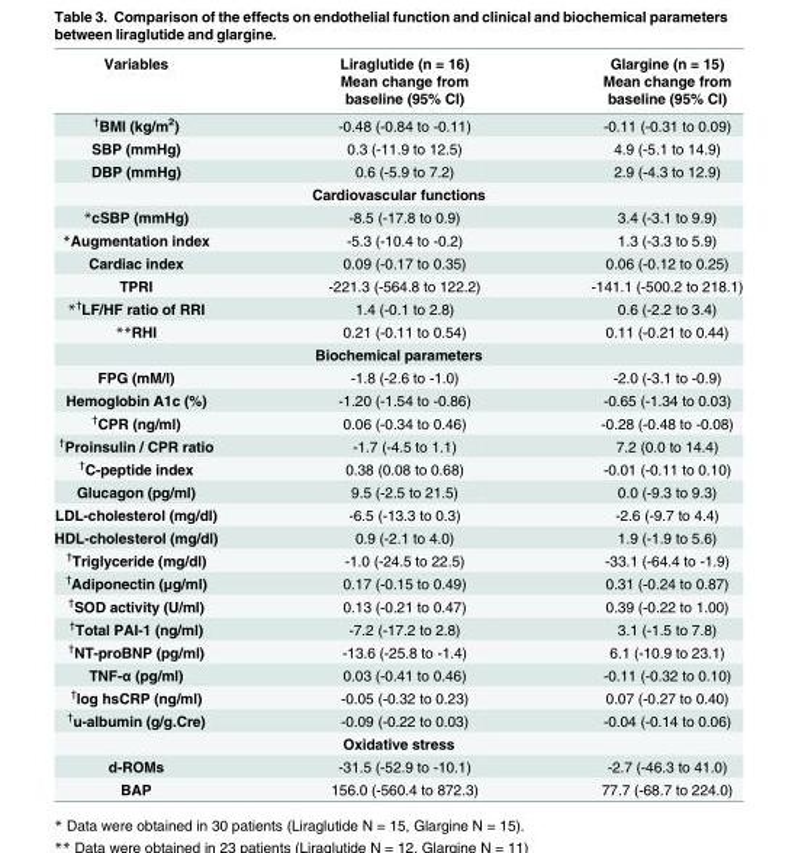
<table><thead><tr><td rowspan="2">Variables</td><td rowspan="2">Liraglutide (n = 16) Mean change from baseline (95% CI)</td><td rowspan="2">Glargine (n = 15) Mean change from baseline (95% CI)</td></tr><tr></tr></thead><tbody><tr><td><sup>†</sup>BMI (kg/m<sup>2</sup>)</td><td>-0.48 (-0.84 to -0.11)</td><td>-0.11 (-0.31 to 0.09)</td></tr><tr><td>SBP (mmHg)</td><td>0.3 (-11.9 to 12.5)</td><td>4.9 (-5.1 to 14.9)</td></tr><tr><td>DBP (mmHg)</td><td>0.6 (-5.9 to 7.2)</td><td>2.9 (-4.3 to 12.9)</td></tr><tr><td colspan="3">Cardiovascular functions</td></tr><tr><td>*cSBP (mmHg)</td><td>-8.5 (-17.8 to 0.9)</td><td>3.4 (-3.1 to 9.9)</td></tr><tr><td>*Augmentation index</td><td>-5.3 (-10.4 to -0.2)</td><td>1.3 (-3.3 to 5.9)</td></tr><tr><td>Cardiac index</td><td>0.09 (-0.17 to 0.35)</td><td>0.06 (-0.12 to 0.25)</td></tr><tr><td>TPRI</td><td>-221.3 (-564.8 to 122.2)</td><td>-141.1 (-500.2 to 218.1)</td></tr><tr><td>*<sup>†</sup>LF/HF ratio of RRI</td><td>1.4 (-0.1 to 2.8)</td><td>0.6 (-2.2 to 3.4)</td></tr><tr><td>**RHI</td><td>0.21 (-0.11 to 0.54)</td><td>0.11 (-0.21 to 0.44)</td></tr><tr><td colspan="3">Biochemical parameters</td></tr><tr><td>FPG (mM/l)</td><td>-1.8 (-2.6 to -1.0)</td><td>-2.0 (-3.1 to -0.9)</td></tr><tr><td>Hemoglobin A1c (%)</td><td>-1.20 (-1.54 to -0.86)</td><td>-0.65 (-1.34 to 0.03)</td></tr><tr><td><sup>†</sup>CPR (ng/ml)</td><td>0.06 (-0.34 to 0.46)</td><td>-0.28 (-0.48 to -0.08)</td></tr><tr><td><sup>†</sup>Proinsulin / CPR ratio</td><td>-1.7 (-4.5 to 1.1)</td><td>7.2 (0.0 to 14.4)</td></tr><tr><td><sup>†</sup>C-peptide index</td><td>0.38 (0.08 to 0.68)</td><td>-0.01 (-0.11 to 0.10)</td></tr><tr><td>Glucagon (pg/ml)</td><td>9.5 (-2.5 to 21.5)</td><td>0.0 (-9.3 to 9.3)</td></tr><tr><td>LDL-cholesterol (mg/dl)</td><td>-6.5 (-13.3 to 0.3)</td><td>-2.6 (-9.7 to 4.4)</td></tr><tr><td>HDL-cholesterol (mg/dl)</td><td>0.9 (-2.1 to 4.0)</td><td>1.9 (-1.9 to 5.6)</td></tr><tr><td><sup>†</sup>Triglyceride (mg/dl)</td><td>-1.0 (-24.5 to 22.5)</td><td>-33.1 (-64.4 to -1.9)</td></tr><tr><td><sup>†</sup>Adiponectin (μg/ml)</td><td>0.17 (-0.15 to 0.49)</td><td>0.31 (-0.24 to 0.87)</td></tr><tr><td><sup>†</sup>SOD activity (U/ml)</td><td>0.13 (-0.21 to 0.47)</td><td>0.39 (-0.22 to 1.00)</td></tr><tr><td><sup>†</sup>Total PAI-1 (ng/ml)</td><td>-7.2 (-17.2 to 2.8)</td><td>3.1 (-1.5 to 7.8)</td></tr><tr><td><sup>†</sup>NT-proBNP (pg/ml)</td><td>-13.6 (-25.8 to -1.4)</td><td>6.1 (-10.9 to 23.1)</td></tr><tr><td>TNF-α (pg/ml)</td><td>0.03 (-0.41 to 0.46)</td><td>-0.11 (-0.32 to 0.10)</td></tr><tr><td><sup>†</sup>log hsCRP (ng/ml)</td><td>-0.05 (-0.32 to 0.23)</td><td>0.07 (-0.27 to 0.40)</td></tr><tr><td><sup>†</sup>u-albumin (g/g.Cre)</td><td>-0.09 (-0.22 to 0.03)</td><td>-0.04 (-0.14 to 0.06)</td></tr><tr><td colspan="3">Oxidative stress</td></tr><tr><td>d-ROMs</td><td>-31.5 (-52.9 to -10.1)</td><td>-2.7 (-46.3 to 41.0)</td></tr><tr><td>BAP</td><td>156.0 (-560.4 to 872.3)</td><td>77.7 (-68.7 to 224.0)</td></tr></tbody></table>